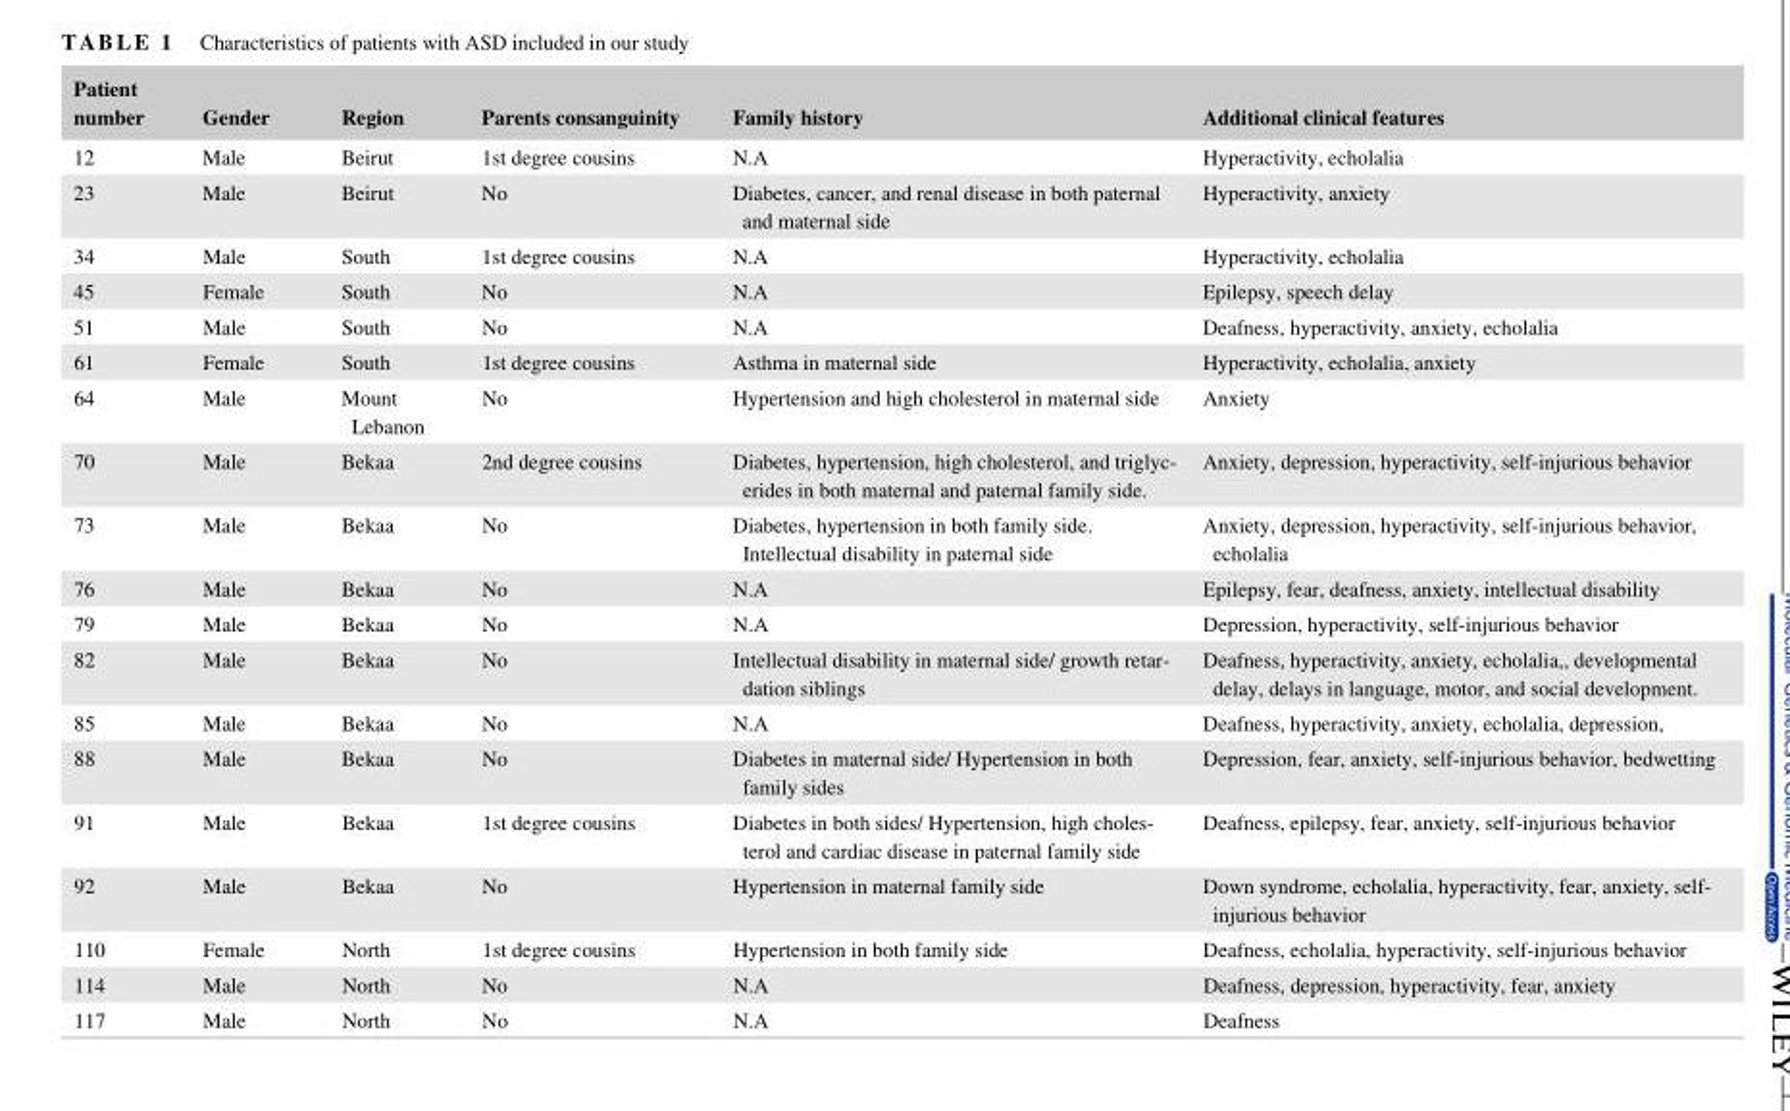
<table><thead><tr><td>Patient number</td><td>Gender</td><td>Region</td><td>Parents consanguinity</td><td>Family history</td><td>Additional clinical features</td></tr></thead><tbody><tr><td>12</td><td>Male</td><td>Beirut</td><td>1st degree cousins</td><td>N.A</td><td>Hyperactivity, echolalia</td></tr><tr><td>23</td><td>Male</td><td>Beirut</td><td>No</td><td>Diabetes, cancer, and renal disease in both paternal and maternal side</td><td>Hyperactivity, anxiety</td></tr><tr><td>34</td><td>Male</td><td>South</td><td>1st degree cousins</td><td>N.A</td><td>Hyperactivity, echolalia</td></tr><tr><td>45</td><td>Female</td><td>South</td><td>No</td><td>N.A</td><td>Epilepsy, speech delay</td></tr><tr><td>51</td><td>Male</td><td>South</td><td>No</td><td>N.A</td><td>Deafness, hyperactivity, anxiety, echolalia</td></tr><tr><td>61</td><td>Female</td><td>South</td><td>1st degree cousins</td><td>Asthma in maternal side</td><td>Hyperactivity, echolalia, anxiety</td></tr><tr><td>64</td><td>Male</td><td>Mount Lebanon</td><td>No</td><td>Hypertension and high cholesterol in maternal side</td><td>Anxiety</td></tr><tr><td>70</td><td>Male</td><td>Bekaa</td><td>2nd degree cousins</td><td>Diabetes, hypertension, high cholesterol, and triglyc- erides in both maternal and paternal family side.</td><td>Anxiety, depression, hyperactivity, self‐injurious behavior</td></tr><tr><td>73</td><td>Male</td><td>Bekaa</td><td>No</td><td>Diabetes, hypertension in both family side. Intellectual disability in paternal side</td><td>Anxiety, depression, hyperactivity, self‐injurious behavior, echolalia</td></tr><tr><td>76</td><td>Male</td><td>Bekaa</td><td>No</td><td>N.A</td><td>Epilepsy, fear, deafness, anxiety, intellectual disability</td></tr><tr><td>79</td><td>Male</td><td>Bekaa</td><td>No</td><td>N.A</td><td>Depression, hyperactivity, self‐injurious behavior</td></tr><tr><td>82</td><td>Male</td><td>Bekaa</td><td>No</td><td>Intellectual disability in maternal side/ growth retar- dation siblings</td><td>Deafness, hyperactivity, anxiety, echolalia,, developmental delay, delays in language, motor, and social development.</td></tr><tr><td>85</td><td>Male</td><td>Bekaa</td><td>No</td><td>N.A</td><td>Deafness, hyperactivity, anxiety, echolalia, depression,</td></tr><tr><td>88</td><td>Male</td><td>Bekaa</td><td>No</td><td>Diabetes in maternal side/ Hypertension in both family sides</td><td>Depression, fear, anxiety, self‐injurious behavior, bedwetting</td></tr><tr><td>91</td><td>Male</td><td>Bekaa</td><td>1st degree cousins</td><td>Diabetes in both sides/ Hypertension, high choles- terol and cardiac disease in paternal family side</td><td>Deafness, epilepsy, fear, anxiety, self‐injurious behavior</td></tr><tr><td>92</td><td>Male</td><td>Bekaa</td><td>No</td><td>Hypertension in maternal family side</td><td>Down syndrome, echolalia, hyperactivity, fear, anxiety, self‐ injurious behavior</td></tr><tr><td>110</td><td>Female</td><td>North</td><td>1st degree cousins</td><td>Hypertension in both family side</td><td>Deafness, echolalia, hyperactivity, self‐injurious behavior</td></tr><tr><td>114</td><td>Male</td><td>North</td><td>No</td><td>N.A</td><td>Deafness, depression, hyperactivity, fear, anxiety</td></tr><tr><td>117</td><td>Male</td><td>North</td><td>No</td><td>N.A</td><td>Deafness</td></tr></tbody></table>